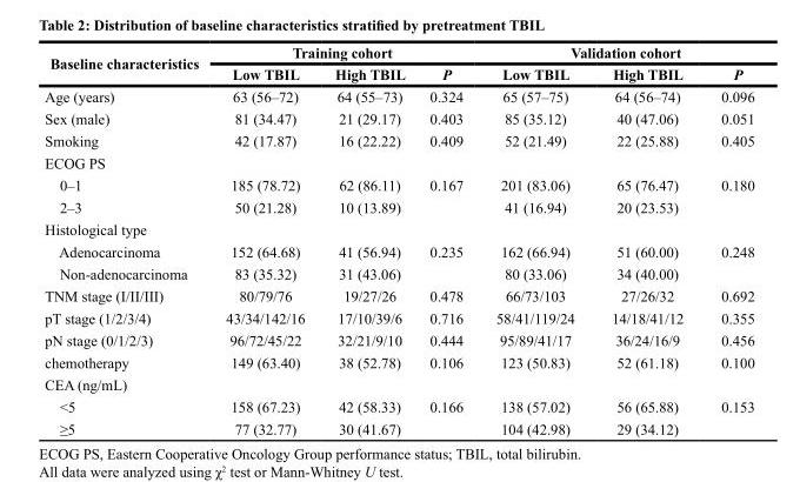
<table><thead><tr><td rowspan="2">Baseline characteristics</td><td colspan="3">Training cohort</td><td colspan="3">Validation cohort</td></tr><tr><td>Low TBIL</td><td>High TBIL</td><td>P</td><td>Low TBIL</td><td>High TBIL</td><td>P</td></tr></thead><tbody><tr><td>Age (years)</td><td>63 (56–72)</td><td>64 (55–73)</td><td>0.324</td><td>65 (57–75)</td><td>64 (56–74)</td><td>0.096</td></tr><tr><td>Sex (male)</td><td>81 (34.47)</td><td>21 (29.17)</td><td>0.403</td><td>85 (35.12)</td><td>40 (47.06)</td><td>0.051</td></tr><tr><td>Smoking</td><td>42 (17.87)</td><td>16 (22.22)</td><td>0.409</td><td>52 (21.49)</td><td>22 (25.88)</td><td>0.405</td></tr><tr><td colspan="7">ECOG PS</td></tr><tr><td>0–1</td><td>185 (78.72)</td><td>62 (86.11)</td><td>0.167</td><td>201 (83.06)</td><td>65 (76.47)</td><td>0.180</td></tr><tr><td>2–3</td><td>50 (21.28)</td><td>10 (13.89)</td><td></td><td>41 (16.94)</td><td>20 (23.53)</td><td></td></tr><tr><td colspan="7">Histological type</td></tr><tr><td>Adenocarcinoma</td><td>152 (64.68)</td><td>41 (56.94)</td><td>0.235</td><td>162 (66.94)</td><td>51 (60.00)</td><td>0.248</td></tr><tr><td>Non-adenocarcinoma</td><td>83 (35.32)</td><td>31 (43.06)</td><td></td><td>80 (33.06)</td><td>34 (40.00)</td><td></td></tr><tr><td>TNM stage (I/II/III)</td><td>80/79/76</td><td>19/27/26</td><td>0.478</td><td>66/73/103</td><td>27/26/32</td><td>0.692</td></tr><tr><td>pT stage (1/2/3/4)</td><td>43/34/142/16</td><td>17/10/39/6</td><td>0.716</td><td>58/41/119/24</td><td>14/18/41/12</td><td>0.355</td></tr><tr><td>pN stage (0/1/2/3)</td><td>96/72/45/22</td><td>32/21/9/10</td><td>0.444</td><td>95/89/41/17</td><td>36/24/16/9</td><td>0.456</td></tr><tr><td>chemotherapy</td><td>149 (63.40)</td><td>38 (52.78)</td><td>0.106</td><td>123 (50.83)</td><td>52 (61.18)</td><td>0.100</td></tr><tr><td colspan="7">CEA (ng/mL)</td></tr><tr><td>&lt;5</td><td>158 (67.23)</td><td>42 (58.33)</td><td>0.166</td><td>138 (57.02)</td><td>56 (65.88)</td><td>0.153</td></tr><tr><td>≥5</td><td>77 (32.77)</td><td>30 (41.67)</td><td></td><td>104 (42.98)</td><td>29 (34.12)</td><td></td></tr></tbody></table>